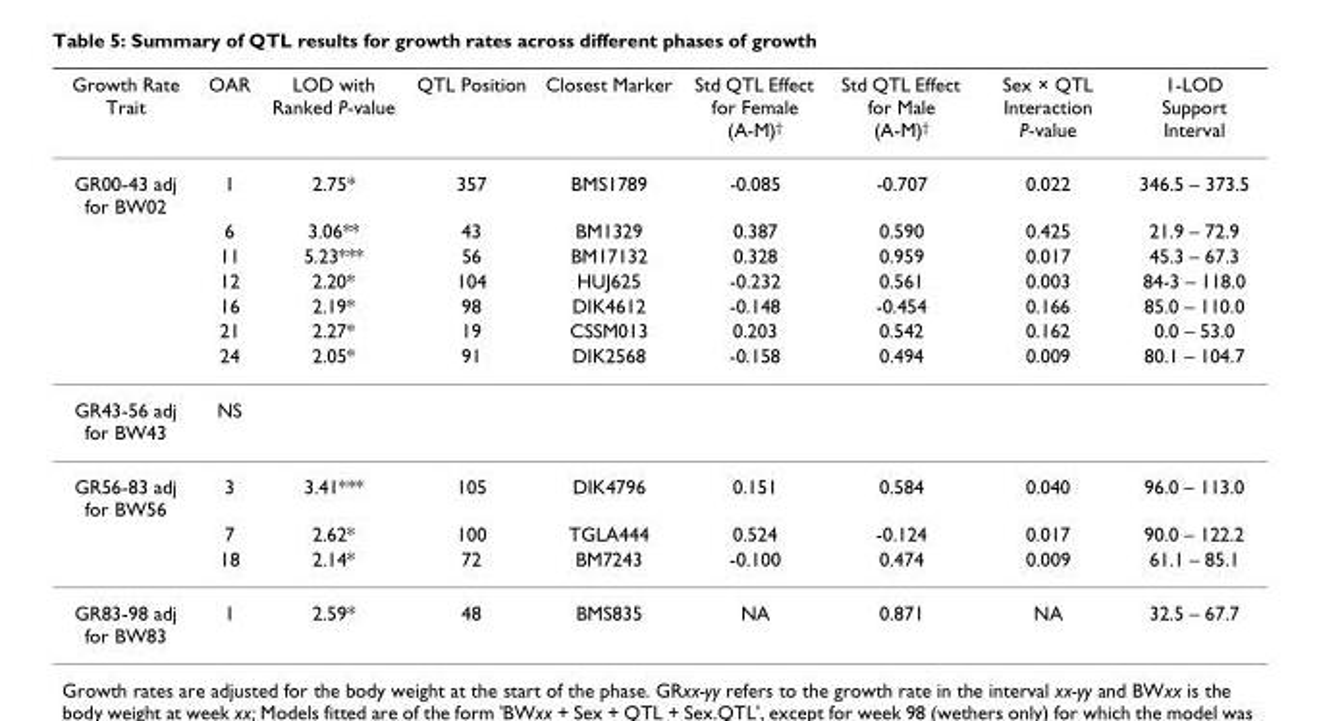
<table><thead><tr><td>Growth Rate Trait</td><td>OAR</td><td>LOD with Ranked P-value</td><td>QTL Position</td><td>Closest Marker</td><td>Std QTL Effect for Female (A-M)<sup>†</sup></td><td>Std QTL Effect for Male (A-M)<sup>†</sup></td><td>Sex × QTL Interaction P-value</td><td>1-LOD Support Interval</td></tr></thead><tbody><tr><td rowspan="7">GR00-43 adj for BW02</td><td>1</td><td>2.75*</td><td>357</td><td>BMS1789</td><td>-0.085</td><td>-0.707</td><td>0.022</td><td>346.5 – 373.5</td></tr><tr><td>6</td><td>3.06**</td><td>43</td><td>BM1329</td><td>0.387</td><td>0.590</td><td>0.425</td><td>21.9 – 72.9</td></tr><tr><td>11</td><td>5.23***</td><td>56</td><td>BM17132</td><td>0.328</td><td>0.959</td><td>0.017</td><td>45.3 – 67.3</td></tr><tr><td>12</td><td>2.20*</td><td>104</td><td>HUJ625</td><td>-0.232</td><td>0.561</td><td>0.003</td><td>84-3 – 118.0</td></tr><tr><td>16</td><td>2.19*</td><td>98</td><td>DIK4612</td><td>-0.148</td><td>-0.454</td><td>0.166</td><td>85.0 – 110.0</td></tr><tr><td>21</td><td>2.27*</td><td>19</td><td>CSSM013</td><td>0.203</td><td>0.542</td><td>0.162</td><td>0.0 – 53.0</td></tr><tr><td>24</td><td>2.05*</td><td>91</td><td>DIK2568</td><td>-0.158</td><td>0.494</td><td>0.009</td><td>80.1 – 104.7</td></tr><tr><td>GR43-56 adj for BW43</td><td>NS</td><td></td><td></td><td></td><td></td><td></td><td></td><td></td></tr><tr><td rowspan="3">GR56-83 adj for BW56</td><td>3</td><td>3.41***</td><td>105</td><td>DIK4796</td><td>0.151</td><td>0.584</td><td>0.040</td><td>96.0 – 113.0</td></tr><tr><td>7</td><td>2.62*</td><td>100</td><td>TGLA444</td><td>0.524</td><td>-0.124</td><td>0.017</td><td>90.0 – 122.2</td></tr><tr><td>18</td><td>2.14*</td><td>72</td><td>BM7243</td><td>-0.100</td><td>0.474</td><td>0.009</td><td>61.1 – 85.1</td></tr><tr><td>GR83-98 adj for BW83</td><td>1</td><td>2.59*</td><td>48</td><td>BMS835</td><td>NA</td><td>0.871</td><td>NA</td><td>32.5 – 67.7</td></tr></tbody></table>